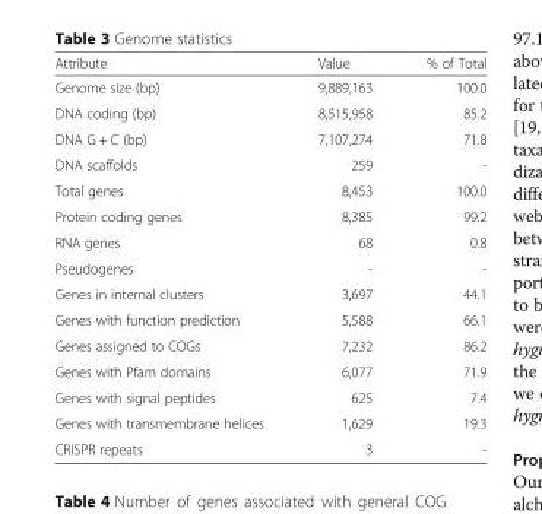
<table><thead><tr><td>Attribute</td><td>Value</td><td>% of Total</td></tr></thead><tbody><tr><td>Genome size (bp)</td><td>9,889,163</td><td>100.0</td></tr><tr><td>DNA coding (bp)</td><td>8,515,958</td><td>85.2</td></tr><tr><td>DNA G + C (bp)</td><td>7,107,274</td><td>71.8</td></tr><tr><td>DNA scaffolds</td><td>259</td><td>-</td></tr><tr><td>Total genes</td><td>8,453</td><td>100.0</td></tr><tr><td>Protein coding genes</td><td>8,385</td><td>99.2</td></tr><tr><td>RNA genes</td><td>68</td><td>0.8</td></tr><tr><td>Pseudogenes</td><td>-</td><td>-</td></tr><tr><td>Genes in internal clusters</td><td>3,697</td><td>44.1</td></tr><tr><td>Genes with function prediction</td><td>5,588</td><td>66.1</td></tr><tr><td>Genes assigned to COGs</td><td>7,232</td><td>86.2</td></tr><tr><td>Genes with Pfam domains</td><td>6,077</td><td>71.9</td></tr><tr><td>Genes with signal peptides</td><td>625</td><td>7.4</td></tr><tr><td>Genes with transmembrane helices</td><td>1,629</td><td>19.3</td></tr><tr><td>CRISPR repeats</td><td>3</td><td>-</td></tr></tbody></table>